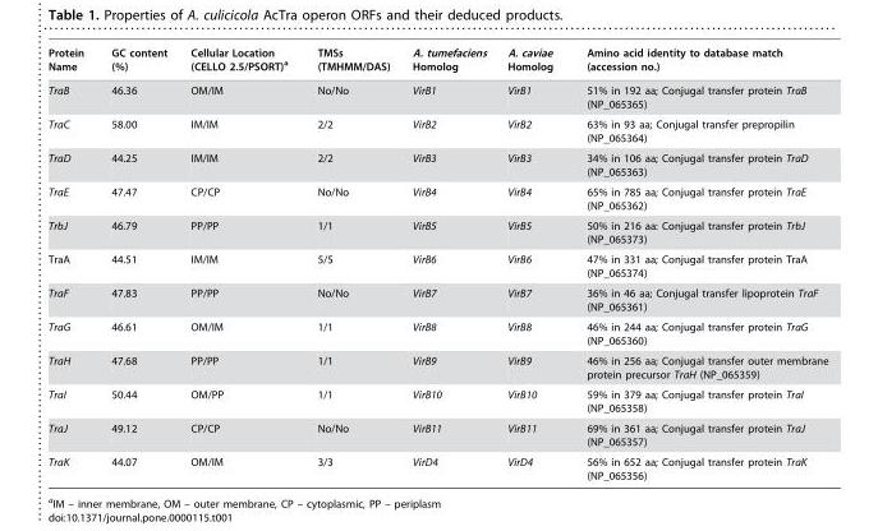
<table><thead><tr><td>Protein Name</td><td>GC content (%)</td><td>Cellular Location (CELLO 2.5/PSORT)<sup>a</sup></td><td>TMSs (TMHMM/DAS)</td><td>A. tumefaciens Homolog</td><td>A. caviae Homolog</td><td>Amino acid identity to database match (accession no.)</td></tr></thead><tbody><tr><td>TraB</td><td>46.36</td><td>OM/IM</td><td>No/No</td><td>VirB1</td><td>VirB1</td><td>51% in 192 aa; Conjugal transfer protein TraB (NP_065365)</td></tr><tr><td>TraC</td><td>58.00</td><td>IM/IM</td><td>2/2</td><td>VirB2</td><td>VirB2</td><td>63% in 93 aa; Conjugal transfer prepropilin (NP_065364)</td></tr><tr><td>TraD</td><td>44.25</td><td>IM/IM</td><td>2/2</td><td>VirB3</td><td>VirB3</td><td>34% in 106 aa; Conjugal transfer protein TraD (NP_065363)</td></tr><tr><td>TraE</td><td>47.47</td><td>CP/CP</td><td>No/No</td><td>VirB4</td><td>VirB4</td><td>65% in 785 aa; Conjugal transfer protein TraE (NP_065362)</td></tr><tr><td>TrbJ</td><td>46.79</td><td>PP/PP</td><td>1/1</td><td>VirB5</td><td>VirB5</td><td>50% in 216 aa: Conjugal transfer protein TrbJ (NP_065373)</td></tr><tr><td>TraA</td><td>44.51</td><td>IM/IM</td><td>5/5</td><td>VirB6</td><td>VirB6</td><td>47% in 331 aa; Conjugal transfer protein TraA (NP_065374)</td></tr><tr><td>TraF</td><td>47.83</td><td>PP/PP</td><td>No/No</td><td>VirB7</td><td>VirB7</td><td>36% in 46 aa; Conjugal transfer lipoprotein TraF (NP_065361)</td></tr><tr><td>TraG</td><td>46.61</td><td>OM/IM</td><td>1/1</td><td>VirB8</td><td>VirB8</td><td>46% in 244 aa; Conjugal transfer protein TraG (NP_065360)</td></tr><tr><td>TraH</td><td>47.68</td><td>PP/PP</td><td>1/1</td><td>VirB9</td><td>VirB9</td><td>46% in 256 aa; Conjugal transfer outer membrane protein precursor TraH (NP_065359)</td></tr><tr><td>TraI</td><td>50.44</td><td>OM/PP</td><td>1/1</td><td>VirB10</td><td>VirB10</td><td>59% in 379 aa; Conjugal transfer protein TraI (NP_065358)</td></tr><tr><td>TraJ</td><td>49.12</td><td>CP/CP</td><td>No/No</td><td>VirB11</td><td>VirB11</td><td>69% in 361 aa; Conjugal transfer protein TraJ (NP_065357)</td></tr><tr><td>TraK</td><td>44.07</td><td>OM/IM</td><td>3/3</td><td>VirD4</td><td>VirD4</td><td>56% in 652 aa; Conjugal transfer protein TraK (NP_065356)</td></tr></tbody></table>